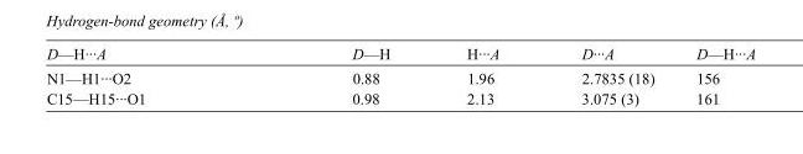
<table><tbody><tr><td>D—H···A</td><td>D—H</td><td>H···A</td><td>D···A</td><td>D—H···A</td></tr><tr><td>N1—H1···O2</td><td>0.88</td><td>1.96</td><td>2.7835 (18)</td><td>156</td></tr><tr><td>C15—H15···O1</td><td>0.98</td><td>2.13</td><td>3.075 (3)</td><td>161</td></tr></tbody></table>